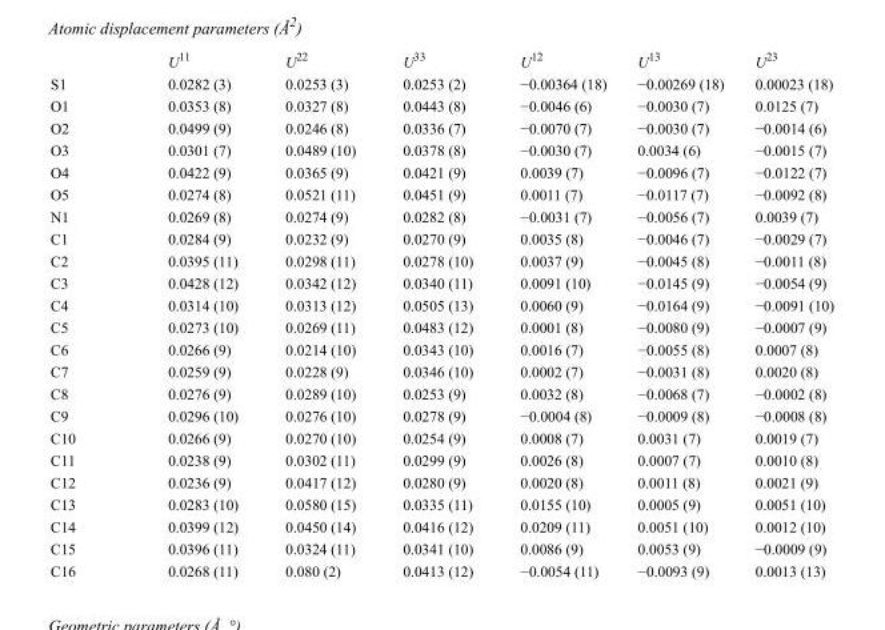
<table><thead><tr><td></td><td>U<sup>11</sup></td><td>U<sup>22</sup></td><td>U<sup>33</sup></td><td>U<sup>12</sup></td><td>U<sup>13</sup></td><td>U<sup>23</sup></td></tr></thead><tbody><tr><td>S1</td><td>0.0282 (3)</td><td>0.0253 (3)</td><td>0.0253 (2)</td><td>−0.00364 (18)</td><td>−0.00269 (18)</td><td>0.00023 (18)</td></tr><tr><td>O1</td><td>0.0353 (8)</td><td>0.0327 (8)</td><td>0.0443 (8)</td><td>−0.0046 (6)</td><td>−0.0030 (7)</td><td>0.0125 (7)</td></tr><tr><td>O2</td><td>0.0499 (9)</td><td>0.0246 (8)</td><td>0.0336 (7)</td><td>−0.0070 (7)</td><td>−0.0030 (7)</td><td>−0.0014 (6)</td></tr><tr><td>O3</td><td>0.0301 (7)</td><td>0.0489 (10)</td><td>0.0378 (8)</td><td>−0.0030 (7)</td><td>0.0034 (6)</td><td>−0.0015 (7)</td></tr><tr><td>O4</td><td>0.0422 (9)</td><td>0.0365 (9)</td><td>0.0421 (9)</td><td>0.0039 (7)</td><td>−0.0096 (7)</td><td>−0.0122 (7)</td></tr><tr><td>O5</td><td>0.0274 (8)</td><td>0.0521 (11)</td><td>0.0451 (9)</td><td>0.0011 (7)</td><td>−0.0117 (7)</td><td>−0.0092 (8)</td></tr><tr><td>N1</td><td>0.0269 (8)</td><td>0.0274 (9)</td><td>0.0282 (8)</td><td>−0.0031 (7)</td><td>−0.0056 (7)</td><td>0.0039 (7)</td></tr><tr><td>C1</td><td>0.0284 (9)</td><td>0.0232 (9)</td><td>0.0270 (9)</td><td>0.0035 (8)</td><td>−0.0046 (7)</td><td>−0.0029 (7)</td></tr><tr><td>C2</td><td>0.0395 (11)</td><td>0.0298 (11)</td><td>0.0278 (10)</td><td>0.0037 (9)</td><td>−0.0045 (8)</td><td>−0.0011 (8)</td></tr><tr><td>C3</td><td>0.0428 (12)</td><td>0.0342 (12)</td><td>0.0340 (11)</td><td>0.0091 (10)</td><td>−0.0145 (9)</td><td>−0.0054 (9)</td></tr><tr><td>C4</td><td>0.0314 (10)</td><td>0.0313 (12)</td><td>0.0505 (13)</td><td>0.0060 (9)</td><td>−0.0164 (9)</td><td>−0.0091 (10)</td></tr><tr><td>C5</td><td>0.0273 (10)</td><td>0.0269 (11)</td><td>0.0483 (12)</td><td>0.0001 (8)</td><td>−0.0080 (9)</td><td>−0.0007 (9)</td></tr><tr><td>C6</td><td>0.0266 (9)</td><td>0.0214 (10)</td><td>0.0343 (10)</td><td>0.0016 (7)</td><td>−0.0055 (8)</td><td>0.0007 (8)</td></tr><tr><td>C7</td><td>0.0259 (9)</td><td>0.0228 (9)</td><td>0.0346 (10)</td><td>0.0002 (7)</td><td>−0.0031 (8)</td><td>0.0020 (8)</td></tr><tr><td>C8</td><td>0.0276 (9)</td><td>0.0289 (10)</td><td>0.0253 (9)</td><td>0.0032 (8)</td><td>−0.0068 (7)</td><td>−0.0002 (8)</td></tr><tr><td>C9</td><td>0.0296 (10)</td><td>0.0276 (10)</td><td>0.0278 (9)</td><td>−0.0004 (8)</td><td>−0.0009 (8)</td><td>−0.0008 (8)</td></tr><tr><td>C10</td><td>0.0266 (9)</td><td>0.0270 (10)</td><td>0.0254 (9)</td><td>0.0008 (7)</td><td>0.0031 (7)</td><td>0.0019 (7)</td></tr><tr><td>C11</td><td>0.0238 (9)</td><td>0.0302 (11)</td><td>0.0299 (9)</td><td>0.0026 (8)</td><td>0.0007 (7)</td><td>0.0010 (8)</td></tr><tr><td>C12</td><td>0.0236 (9)</td><td>0.0417 (12)</td><td>0.0280 (9)</td><td>0.0020 (8)</td><td>0.0011 (8)</td><td>0.0021 (9)</td></tr><tr><td>C13</td><td>0.0283 (10)</td><td>0.0580 (15)</td><td>0.0335 (11)</td><td>0.0155 (10)</td><td>0.0005 (9)</td><td>0.0051 (10)</td></tr><tr><td>C14</td><td>0.0399 (12)</td><td>0.0450 (14)</td><td>0.0416 (12)</td><td>0.0209 (11)</td><td>0.0051 (10)</td><td>0.0012 (10)</td></tr><tr><td>C15</td><td>0.0396 (11)</td><td>0.0324 (11)</td><td>0.0341 (10)</td><td>0.0086 (9)</td><td>0.0053 (9)</td><td>−0.0009 (9)</td></tr><tr><td>C16</td><td>0.0268 (11)</td><td>0.080 (2)</td><td>0.0413 (12)</td><td>−0.0054 (11)</td><td>−0.0093 (9)</td><td>0.0013 (13)</td></tr></tbody></table>